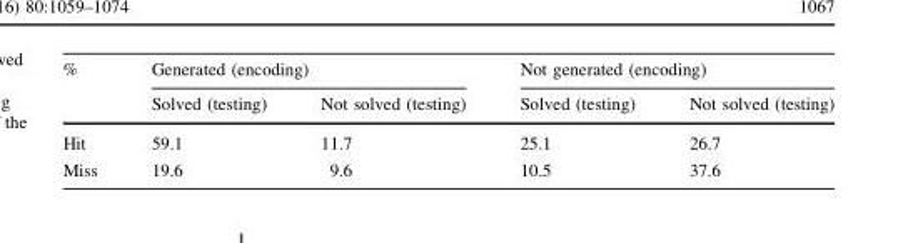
<table><thead><tr><td rowspan="2">%</td><td colspan="2">Generated (encoding)</td><td colspan="2">Not generated (encoding)</td></tr><tr><td>Solved (testing)</td><td>Not solved (testing)</td><td>Solved (testing)</td><td>Not solved (testing)</td></tr></thead><tbody><tr><td>Hit</td><td>59.1</td><td>11.7</td><td>25.1</td><td>26.7</td></tr><tr><td>Miss</td><td>19.6</td><td>9.6</td><td>10.5</td><td>37.6</td></tr></tbody></table>